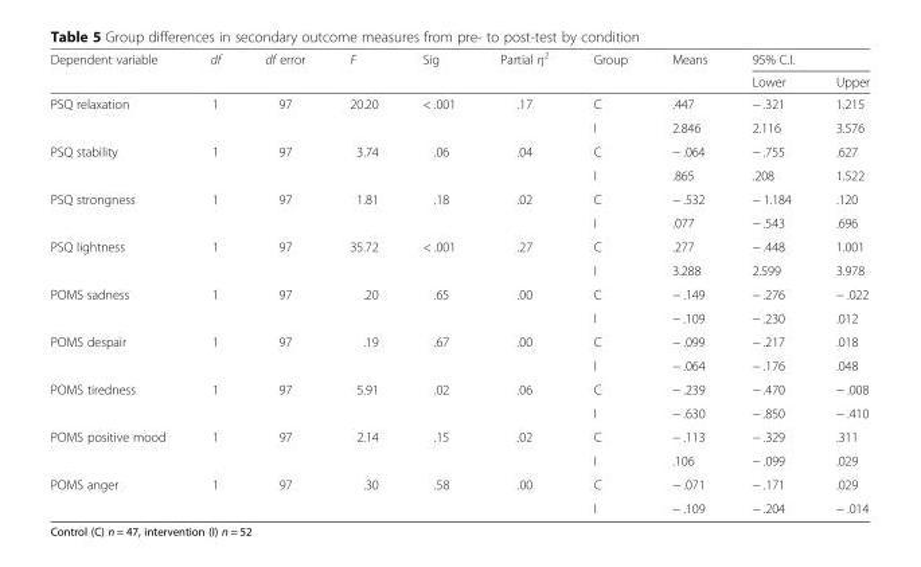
<table><thead><tr><td rowspan="2">Dependent variable</td><td rowspan="2">df</td><td rowspan="2">df error</td><td rowspan="2">F</td><td rowspan="2">Sig</td><td rowspan="2">Partial η<sup>2</sup></td><td rowspan="2">Group</td><td rowspan="2">Means</td><td colspan="2">95% C.I.</td></tr><tr><td>Lower</td><td>Upper</td></tr></thead><tbody><tr><td rowspan="2">PSQ relaxation</td><td rowspan="2">1</td><td rowspan="2">97</td><td rowspan="2">20.20</td><td rowspan="2">&lt; .001</td><td rowspan="2">.17</td><td>C</td><td>.447</td><td>− .321</td><td>1.215</td></tr><tr><td>I</td><td>2.846</td><td>2.116</td><td>3.576</td></tr><tr><td rowspan="2">PSQ stability</td><td rowspan="2">1</td><td rowspan="2">97</td><td rowspan="2">3.74</td><td rowspan="2">.06</td><td rowspan="2">.04</td><td>C</td><td>− .064</td><td>− .755</td><td>.627</td></tr><tr><td>I</td><td>.865</td><td>.208</td><td>1.522</td></tr><tr><td rowspan="2">PSQ strongness</td><td rowspan="2">1</td><td rowspan="2">97</td><td rowspan="2">1.81</td><td rowspan="2">.18</td><td rowspan="2">.02</td><td>C</td><td>− .532</td><td>− 1.184</td><td>.120</td></tr><tr><td>I</td><td>.077</td><td>− .543</td><td>.696</td></tr><tr><td rowspan="2">PSQ lightness</td><td rowspan="2">1</td><td rowspan="2">97</td><td rowspan="2">35.72</td><td rowspan="2">&lt; .001</td><td rowspan="2">.27</td><td>C</td><td>.277</td><td>− .448</td><td>1.001</td></tr><tr><td>I</td><td>3.288</td><td>2.599</td><td>3.978</td></tr><tr><td rowspan="2">POMS sadness</td><td rowspan="2">1</td><td rowspan="2">97</td><td rowspan="2">.20</td><td rowspan="2">.65</td><td rowspan="2">.00</td><td>C</td><td>− .149</td><td>− .276</td><td>− .022</td></tr><tr><td>I</td><td>− .109</td><td>− .230</td><td>.012</td></tr><tr><td rowspan="2">POMS despair</td><td rowspan="2">1</td><td rowspan="2">97</td><td rowspan="2">.19</td><td rowspan="2">.67</td><td rowspan="2">.00</td><td>C</td><td>− .099</td><td>− .217</td><td>.018</td></tr><tr><td>I</td><td>− .064</td><td>− .176</td><td>.048</td></tr><tr><td rowspan="2">POMS tiredness</td><td rowspan="2">1</td><td rowspan="2">97</td><td rowspan="2">5.91</td><td rowspan="2">.02</td><td rowspan="2">.06</td><td>C</td><td>− .239</td><td>− .470</td><td>− .008</td></tr><tr><td>I</td><td>− .630</td><td>− .850</td><td>− .410</td></tr><tr><td rowspan="2">POMS positive mood</td><td rowspan="2">1</td><td rowspan="2">97</td><td rowspan="2">2.14</td><td rowspan="2">.15</td><td rowspan="2">.02</td><td>C</td><td>− .113</td><td>− .329</td><td>.311</td></tr><tr><td>I</td><td>.106</td><td>− .099</td><td>.029</td></tr><tr><td rowspan="2">POMS anger</td><td rowspan="2">1</td><td rowspan="2">97</td><td rowspan="2">.30</td><td rowspan="2">.58</td><td rowspan="2">.00</td><td>C</td><td>− .071</td><td>− .171</td><td>.029</td></tr><tr><td>I</td><td>− .109</td><td>− .204</td><td>− .014</td></tr></tbody></table>